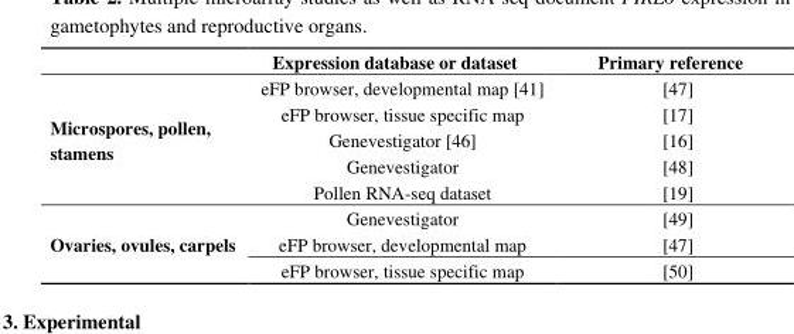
<table><thead><tr><td></td><td>Expression database or dataset</td><td>Primary reference</td></tr></thead><tbody><tr><td rowspan="5">Microspores, pollen, stamens</td><td>eFP browser, developmental map [41]</td><td>[47]</td></tr><tr><td>eFP browser, tissue specific map</td><td>[17]</td></tr><tr><td>Genevestigator [46]</td><td>[16]</td></tr><tr><td>Genevestigator</td><td>[48]</td></tr><tr><td>Pollen RNA-seq dataset</td><td>[19]</td></tr><tr><td rowspan="3">Ovaries, ovules, carpels</td><td>Genevestigator</td><td>[49]</td></tr><tr><td>eFP browser, developmental map</td><td>[47]</td></tr><tr><td>eFP browser, tissue specific map</td><td>[50]</td></tr></tbody></table>